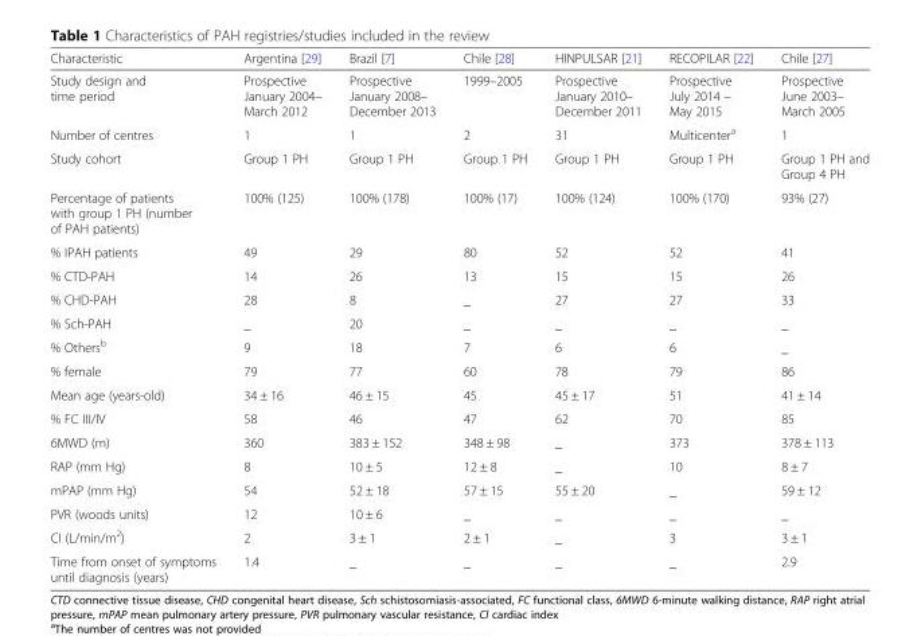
<table><thead><tr><td>Characteristic</td><td>Argentina [29]</td><td>Brazil [7]</td><td>Chile [28]</td><td>HINPULSAR [21]</td><td>RECOPILAR [22]</td><td>Chile [27]</td></tr></thead><tbody><tr><td>Study design and time period</td><td>Prospective January 2004– March 2012</td><td>Prospective January 2008– December 2013</td><td>1999–2005</td><td>Prospective January 2010– December 2011</td><td>Prospective July 2014 – May 2015</td><td>Prospective June 2003– March 2005</td></tr><tr><td>Number of centres</td><td>1</td><td>1</td><td>2</td><td>31</td><td>Multicenter<sup>a</sup></td><td>1</td></tr><tr><td>Study cohort</td><td>Group 1 PH</td><td>Group 1 PH</td><td>Group 1 PH</td><td>Group 1 PH</td><td>Group 1 PH</td><td>Group 1 PH and Group 4 PH</td></tr><tr><td>Percentage of patients with group 1 PH (number of PAH patients)</td><td>100% (125)</td><td>100% (178)</td><td>100% (17)</td><td>100% (124)</td><td>100% (170)</td><td>93% (27)</td></tr><tr><td>% IPAH patients</td><td>49</td><td>29</td><td>80</td><td>52</td><td>52</td><td>41</td></tr><tr><td>% CTD-PAH</td><td>14</td><td>26</td><td>13</td><td>15</td><td>15</td><td>26</td></tr><tr><td>% CHD-PAH</td><td>28</td><td>8</td><td>_</td><td>27</td><td>27</td><td>33</td></tr><tr><td>% Sch-PAH</td><td>_</td><td>20</td><td>_</td><td>_</td><td>_</td><td>_</td></tr><tr><td>% Others<sup>b</sup></td><td>9</td><td>18</td><td>7</td><td>6</td><td>6</td><td>_</td></tr><tr><td>% female</td><td>79</td><td>77</td><td>60</td><td>78</td><td>79</td><td>86</td></tr><tr><td>Mean age (years-old)</td><td>34 ± 16</td><td>46 ± 15</td><td>45</td><td>45 ± 17</td><td>51</td><td>41 ± 14</td></tr><tr><td>% FC III/IV</td><td>58</td><td>46</td><td>47</td><td>62</td><td>70</td><td>85</td></tr><tr><td>6MWD (m)</td><td>360</td><td>383 ± 152</td><td>348 ± 98</td><td>_</td><td>373</td><td>378 ± 113</td></tr><tr><td>RAP (mm Hg)</td><td>8</td><td>10 ± 5</td><td>12 ± 8</td><td>_</td><td>10</td><td>8 ± 7</td></tr><tr><td>mPAP (mm Hg)</td><td>54</td><td>52 ± 18</td><td>57 ± 15</td><td>55 ± 20</td><td>_</td><td>59 ± 12</td></tr><tr><td>PVR (woods units)</td><td>12</td><td>10 ± 6</td><td>_</td><td>_</td><td>_</td><td>_</td></tr><tr><td>CI (L/min/m<sup>2</sup>)</td><td>2</td><td>3 ± 1</td><td>2 ± 1</td><td>_</td><td>3</td><td>3 ± 1</td></tr><tr><td>Time from onset of symptoms until diagnosis (years)</td><td>1.4</td><td>_</td><td>_</td><td>_</td><td>_</td><td>2.9</td></tr></tbody></table>